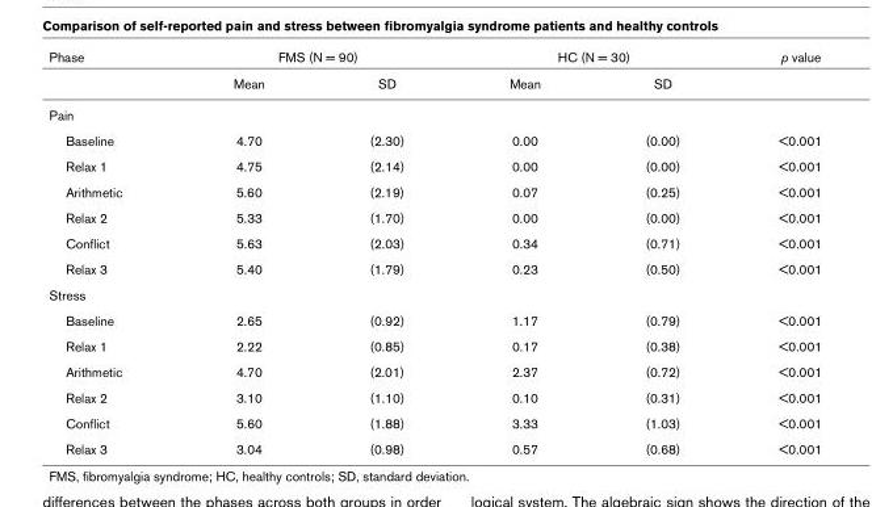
<table><thead><tr><td rowspan="2">Phase</td><td colspan="2">FMS (N = 90)</td><td colspan="2">HC (N = 30)</td><td rowspan="2">p value</td></tr><tr><td>Mean</td><td>SD</td><td>Mean</td><td>SD</td></tr></thead><tbody><tr><td colspan="6">Pain</td></tr><tr><td>Baseline</td><td>4.70</td><td>(2.30)</td><td>0.00</td><td>(0.00)</td><td>&lt;0.001</td></tr><tr><td>Relax 1</td><td>4.75</td><td>(2.14)</td><td>0.00</td><td>(0.00)</td><td>&lt;0.001</td></tr><tr><td>Arithmetic</td><td>5.60</td><td>(2.19)</td><td>0.07</td><td>(0.25)</td><td>&lt;0.001</td></tr><tr><td>Relax 2</td><td>5.33</td><td>(1.70)</td><td>0.00</td><td>(0.00)</td><td>&lt;0.001</td></tr><tr><td>Conflict</td><td>5.63</td><td>(2.03)</td><td>0.34</td><td>(0.71)</td><td>&lt;0.001</td></tr><tr><td>Relax 3</td><td>5.40</td><td>(1.79)</td><td>0.23</td><td>(0.50)</td><td>&lt;0.001</td></tr><tr><td colspan="6">Stress</td></tr><tr><td>Baseline</td><td>2.65</td><td>(0.92)</td><td>1.17</td><td>(0.79)</td><td>&lt;0.001</td></tr><tr><td>Relax 1</td><td>2.22</td><td>(0.85)</td><td>0.17</td><td>(0.38)</td><td>&lt;0.001</td></tr><tr><td>Arithmetic</td><td>4.70</td><td>(2.01)</td><td>2.37</td><td>(0.72)</td><td>&lt;0.001</td></tr><tr><td>Relax 2</td><td>3.10</td><td>(1.10)</td><td>0.10</td><td>(0.31)</td><td>&lt;0.001</td></tr><tr><td>Conflict</td><td>5.60</td><td>(1.88)</td><td>3.33</td><td>(1.03)</td><td>&lt;0.001</td></tr><tr><td>Relax 3</td><td>3.04</td><td>(0.98)</td><td>0.57</td><td>(0.68)</td><td>&lt;0.001</td></tr></tbody></table>